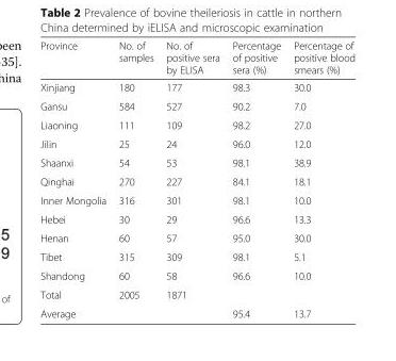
<table><thead><tr><td>Province</td><td>No. of samples</td><td>No. of positive sera by ELISA</td><td>Percentage of positive sera (%)</td><td>Percentage of positive blood smears (%)</td></tr></thead><tbody><tr><td>Xinjiang</td><td>180</td><td>177</td><td>98.3</td><td>30.0</td></tr><tr><td>Gansu</td><td>584</td><td>527</td><td>90.2</td><td>7.0</td></tr><tr><td>Liaoning</td><td>111</td><td>109</td><td>98.2</td><td>27.0</td></tr><tr><td>Jilin</td><td>25</td><td>24</td><td>96.0</td><td>12.0</td></tr><tr><td>Shaanxi</td><td>54</td><td>53</td><td>98.1</td><td>38.9</td></tr><tr><td>Qinghai</td><td>270</td><td>227</td><td>84.1</td><td>18.1</td></tr><tr><td>Inner Mongolia</td><td>316</td><td>301</td><td>98.1</td><td>10.0</td></tr><tr><td>Hebei</td><td>30</td><td>29</td><td>96.6</td><td>13.3</td></tr><tr><td>Henan</td><td>60</td><td>57</td><td>95.0</td><td>30.0</td></tr><tr><td>Tibet</td><td>315</td><td>309</td><td>98.1</td><td>5.1</td></tr><tr><td>Shandong</td><td>60</td><td>58</td><td>96.6</td><td>10.0</td></tr><tr><td>Total</td><td>2005</td><td>1871</td><td></td><td></td></tr><tr><td>Average</td><td></td><td></td><td>95.4</td><td>13.7</td></tr></tbody></table>